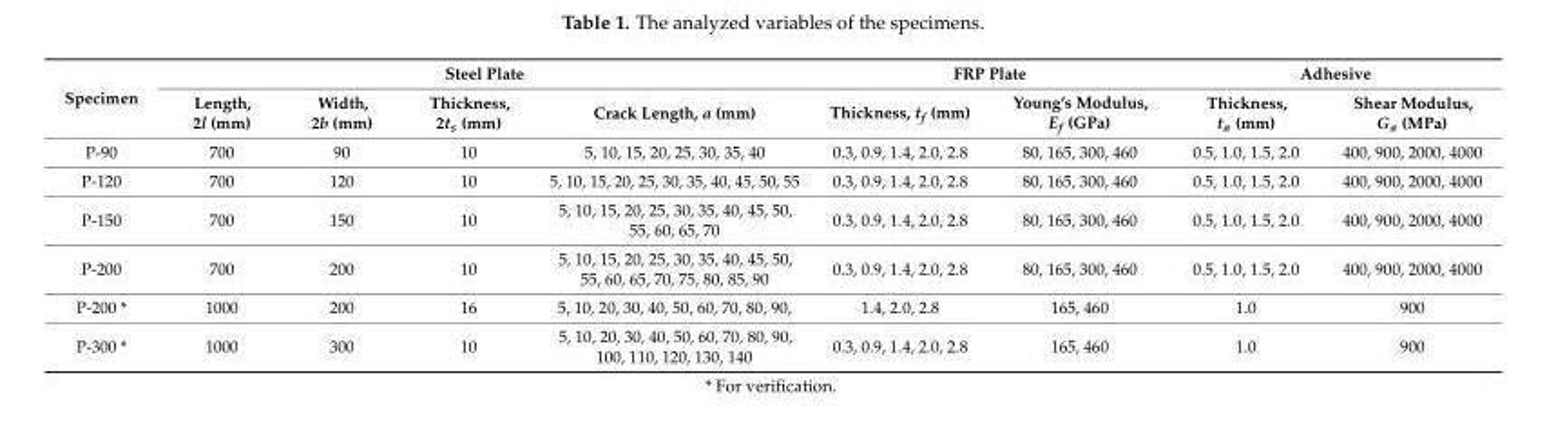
<table><thead><tr><td rowspan="2">Specimen</td><td colspan="4">Steel Plate</td><td colspan="2">FRP Plate</td><td colspan="2">Adhesive</td></tr><tr><td>Length, 2l (mm)</td><td>Width, 2b (mm)</td><td>Thickness, 2t<sub>s</sub> (mm)</td><td>Crack Length, a (mm)</td><td>Thickness, t<sub>f</sub> (mm)</td><td>Young’s Modulus, E<sub>f</sub> (GPa)</td><td>Thickness, t<sub>a</sub> (mm)</td><td>Shear Modulus, G<sub>a</sub> (MPa)</td></tr></thead><tbody><tr><td>P-90</td><td>700</td><td>90</td><td>10</td><td>5, 10, 15, 20, 25, 30, 35, 40</td><td>0.3, 0.9, 1.4, 2.0, 2.8</td><td>80, 165, 300, 460</td><td>0.5, 1.0, 1.5, 2.0</td><td>400, 900, 2000, 4000</td></tr><tr><td>P-120</td><td>700</td><td>120</td><td>10</td><td>5, 10, 15, 20, 25, 30, 35, 40, 45, 50, 55</td><td>0.3, 0.9, 1.4, 2.0, 2.8</td><td>80, 165, 300, 460</td><td>0.5, 1.0, 1.5, 2.0</td><td>400, 900, 2000, 4000</td></tr><tr><td>P-150</td><td>700</td><td>150</td><td>10</td><td>5, 10, 15, 20, 25, 30, 35, 40, 45, 50, 55, 60, 65, 70</td><td>0.3, 0.9, 1.4, 2.0, 2.8</td><td>80, 165, 300, 460</td><td>0.5, 1.0, 1.5, 2.0</td><td>400, 900, 2000, 4000</td></tr><tr><td>P-200</td><td>700</td><td>200</td><td>10</td><td>5, 10, 15, 20, 25, 30, 35, 40, 45, 50, 55, 60, 65, 70, 75, 80, 85, 90</td><td>0.3, 0.9, 1.4, 2.0, 2.8</td><td>80, 165, 300, 460</td><td>0.5, 1.0, 1.5, 2.0</td><td>400, 900, 2000, 4000</td></tr><tr><td>P-200 *</td><td>1000</td><td>200</td><td>16</td><td>5, 10, 20, 30, 40, 50, 60, 70, 80, 90,</td><td>1.4, 2.0, 2.8</td><td>165, 460</td><td>1.0</td><td>900</td></tr><tr><td>P-300 *</td><td>1000</td><td>300</td><td>10</td><td>5, 10, 20, 30, 40, 50, 60, 70, 80, 90, 100, 110, 120, 130, 140</td><td>0.3, 0.9, 1.4, 2.0, 2.8</td><td>165, 460</td><td>1.0</td><td>900</td></tr></tbody></table>